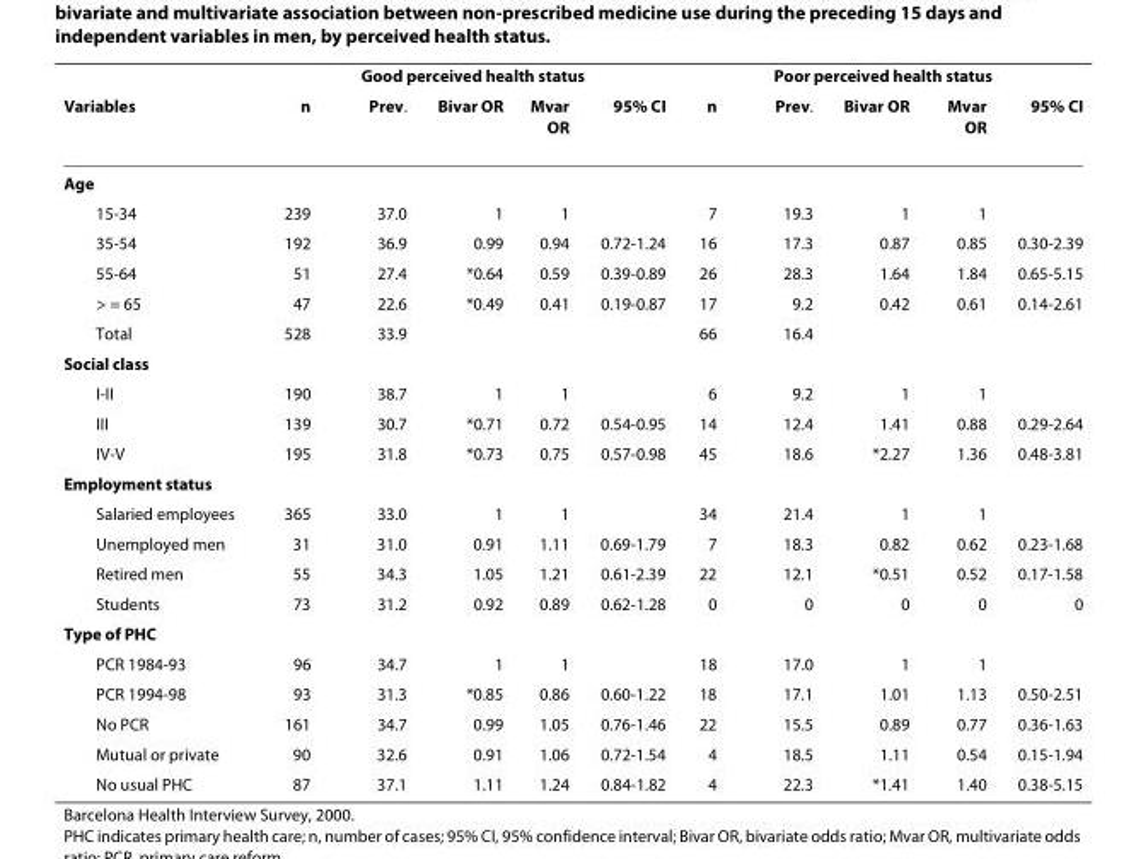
<table><thead><tr><td rowspan="2">Variables</td><td colspan="5">Good perceived health status</td><td colspan="5">Poor perceived health status</td></tr><tr><td>n</td><td>Prev.</td><td>Bivar OR</td><td>Mvar OR</td><td>95% CI</td><td>n</td><td>Prev.</td><td>Bivar OR</td><td>Mvar OR</td><td>95% CI</td></tr></thead><tbody><tr><td colspan="11">Age</td></tr><tr><td>15-34</td><td>239</td><td>37.0</td><td>1</td><td>1</td><td></td><td>7</td><td>19.3</td><td>1</td><td>1</td><td></td></tr><tr><td>35-54</td><td>192</td><td>36.9</td><td>0.99</td><td>0.94</td><td>0.72-1.24</td><td>16</td><td>17.3</td><td>0.87</td><td>0.85</td><td>0.30-2.39</td></tr><tr><td>55-64</td><td>51</td><td>27.4</td><td>*0.64</td><td>0.59</td><td>0.39-0.89</td><td>26</td><td>28.3</td><td>1.64</td><td>1.84</td><td>0.65-5.15</td></tr><tr><td>&gt; = 65</td><td>47</td><td>22.6</td><td>*0.49</td><td>0.41</td><td>0.19-0.87</td><td>17</td><td>9.2</td><td>0.42</td><td>0.61</td><td>0.14-2.61</td></tr><tr><td>Total</td><td>528</td><td>33.9</td><td></td><td></td><td></td><td>66</td><td>16.4</td><td></td><td></td><td></td></tr><tr><td colspan="11">Social class</td></tr><tr><td>I-II</td><td>190</td><td>38.7</td><td>1</td><td>1</td><td></td><td>6</td><td>9.2</td><td>1</td><td>1</td><td></td></tr><tr><td>III</td><td>139</td><td>30.7</td><td>*0.71</td><td>0.72</td><td>0.54-0.95</td><td>14</td><td>12.4</td><td>1.41</td><td>0.88</td><td>0.29-2.64</td></tr><tr><td>IV-V</td><td>195</td><td>31.8</td><td>*0.73</td><td>0.75</td><td>0.57-0.98</td><td>45</td><td>18.6</td><td>*2.27</td><td>1.36</td><td>0.48-3.81</td></tr><tr><td colspan="11">Employment status</td></tr><tr><td>Salaried employees</td><td>365</td><td>33.0</td><td>1</td><td>1</td><td></td><td>34</td><td>21.4</td><td>1</td><td>1</td><td></td></tr><tr><td>Unemployed men</td><td>31</td><td>31.0</td><td>0.91</td><td>1.11</td><td>0.69-1.79</td><td>7</td><td>18.3</td><td>0.82</td><td>0.62</td><td>0.23-1.68</td></tr><tr><td>Retired men</td><td>55</td><td>34.3</td><td>1.05</td><td>1.21</td><td>0.61-2.39</td><td>22</td><td>12.1</td><td>*0.51</td><td>0.52</td><td>0.17-1.58</td></tr><tr><td>Students</td><td>73</td><td>31.2</td><td>0.92</td><td>0.89</td><td>0.62-1.28</td><td>0</td><td>0</td><td>0</td><td>0</td><td>0</td></tr><tr><td colspan="11">Type of PHC</td></tr><tr><td>PCR 1984-93</td><td>96</td><td>34.7</td><td>1</td><td>1</td><td></td><td>18</td><td>17.0</td><td>1</td><td>1</td><td></td></tr><tr><td>PCR 1994-98</td><td>93</td><td>31.3</td><td>*0.85</td><td>0.86</td><td>0.60-1.22</td><td>18</td><td>17.1</td><td>1.01</td><td>1.13</td><td>0.50-2.51</td></tr><tr><td>No PCR</td><td>161</td><td>34.7</td><td>0.99</td><td>1.05</td><td>0.76-1.46</td><td>22</td><td>15.5</td><td>0.89</td><td>0.77</td><td>0.36-1.63</td></tr><tr><td>Mutual or private</td><td>90</td><td>32.6</td><td>0.91</td><td>1.06</td><td>0.72-1.54</td><td>4</td><td>18.5</td><td>1.11</td><td>0.54</td><td>0.15-1.94</td></tr><tr><td>No usual PHC</td><td>87</td><td>37.1</td><td>1.11</td><td>1.24</td><td>0.84-1.82</td><td>4</td><td>22.3</td><td>*1.41</td><td>1.40</td><td>0.38-5.15</td></tr></tbody></table>